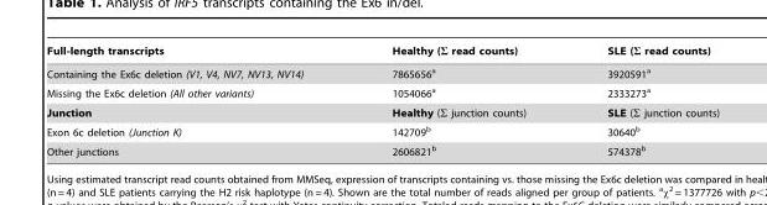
<table><thead><tr><td>Full-length transcripts</td><td>Healthy (Σ read counts)</td><td>SLE (Σ read counts)</td></tr></thead><tbody><tr><td>Containing the Ex6c deletion (V1, V4, NV7, NV13, NV14)</td><td>7865656<sup>a</sup></td><td>3920591<sup>a</sup></td></tr><tr><td>Missing the Ex6c deletion (All other variants)</td><td>1054066<sup>a</sup></td><td>2333273<sup>a</sup></td></tr><tr><td>Junction</td><td>Healthy (Σ junction counts)</td><td>SLE (Σ junction counts)</td></tr><tr><td>Exon 6c deletion (Junction K)</td><td>142709<sup>b</sup></td><td>30640<sup>b</sup></td></tr><tr><td>Other junctions</td><td>2606821<sup>b</sup></td><td>574378<sup>b</sup></td></tr></tbody></table>